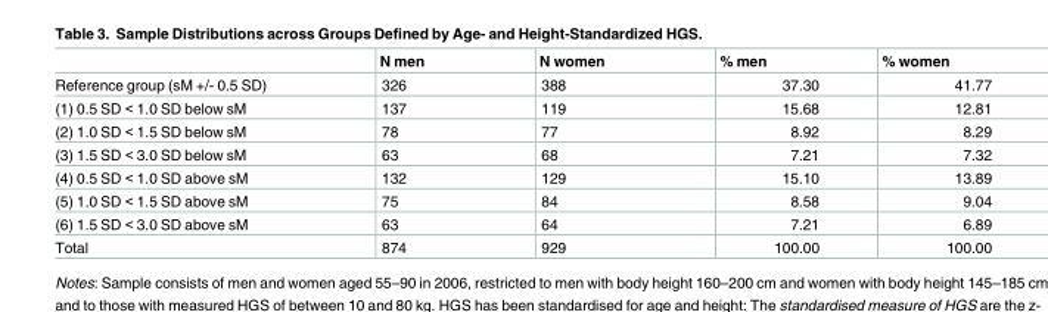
<table><thead><tr><td></td><td>N men</td><td>N women</td><td>% men</td><td>% women</td></tr></thead><tbody><tr><td>Reference group (sM +/- 0.5 SD)</td><td>326</td><td>388</td><td>37.30</td><td>41.77</td></tr><tr><td>(1) 0.5 SD &lt; 1.0 SD below sM</td><td>137</td><td>119</td><td>15.68</td><td>12.81</td></tr><tr><td>(2) 1.0 SD &lt; 1.5 SD below sM</td><td>78</td><td>77</td><td>8.92</td><td>8.29</td></tr><tr><td>(3) 1.5 SD &lt; 3.0 SD below sM</td><td>63</td><td>68</td><td>7.21</td><td>7.32</td></tr><tr><td>(4) 0.5 SD &lt; 1.0 SD above sM</td><td>132</td><td>129</td><td>15.10</td><td>13.89</td></tr><tr><td>(5) 1.0 SD &lt; 1.5 SD above sM</td><td>75</td><td>84</td><td>8.58</td><td>9.04</td></tr><tr><td>(6) 1.5 SD &lt; 3.0 SD above sM</td><td>63</td><td>64</td><td>7.21</td><td>6.89</td></tr><tr><td>Total</td><td>874</td><td>929</td><td>100.00</td><td>100.00</td></tr></tbody></table>